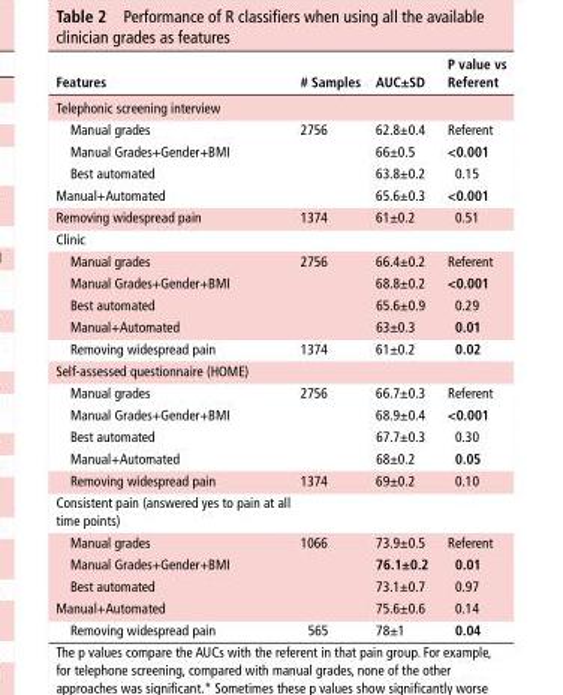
<table><thead><tr><td>Features</td><td># samples</td><td>AuC±sd</td><td>P value vs referent</td></tr></thead><tbody><tr><td colspan="4">Telephonic screening interview</td></tr><tr><td>Manual grades</td><td rowspan="4">2756</td><td>62.8±0.4</td><td>Referent</td></tr><tr><td>Manual Grades+Gender+BMI</td><td>66±0.5</td><td>&lt;0.001</td></tr><tr><td>Best automated</td><td>63.8±0.2</td><td>0.15</td></tr><tr><td>Manual+Automated</td><td>65.6±0.3</td><td>&lt;0.001</td></tr><tr><td>Removing widespread pain</td><td>1374</td><td>61±0.2</td><td>0.51</td></tr><tr><td colspan="4">Clinic</td></tr><tr><td>Manual grades</td><td rowspan="4">2756</td><td>66.4±0.2</td><td>Referent</td></tr><tr><td>Manual Grades+Gender+BMI</td><td>68.8±0.2</td><td>&lt;0.001</td></tr><tr><td>Best automated</td><td>65.6±0.9</td><td>0.29</td></tr><tr><td>Manual+Automated</td><td>63±0.3</td><td>0.01</td></tr><tr><td>Removing widespread pain</td><td>1374</td><td>61±0.2</td><td>0.02</td></tr><tr><td colspan="4">Self-assessed questionnaire (HOME)</td></tr><tr><td>Manual grades</td><td rowspan="4">2756</td><td>66.7±0.3</td><td>Referent</td></tr><tr><td>Manual Grades+Gender+BMI</td><td>68.9±0.4</td><td>&lt;0.001</td></tr><tr><td>Best automated</td><td>67.7±0.3</td><td>0.30</td></tr><tr><td>Manual+Automated</td><td>68±0.2</td><td>0.05</td></tr><tr><td>Removing widespread pain</td><td>1374</td><td>69±0.2</td><td>0.10</td></tr><tr><td colspan="4">Consistent pain (answered yes to pain at all time points)</td></tr><tr><td>Manual grades</td><td rowspan="4">1066</td><td>73.9±0.5</td><td>Referent</td></tr><tr><td>Manual Grades+Gender+BMI</td><td>76.1±0.2</td><td>0.01</td></tr><tr><td>Best automated</td><td>73.1±0.7</td><td>0.97</td></tr><tr><td>Manual+Automated</td><td>75.6±0.6</td><td>0.14</td></tr><tr><td>Removing widespread pain</td><td>565</td><td>78±1</td><td>0.04</td></tr></tbody></table>